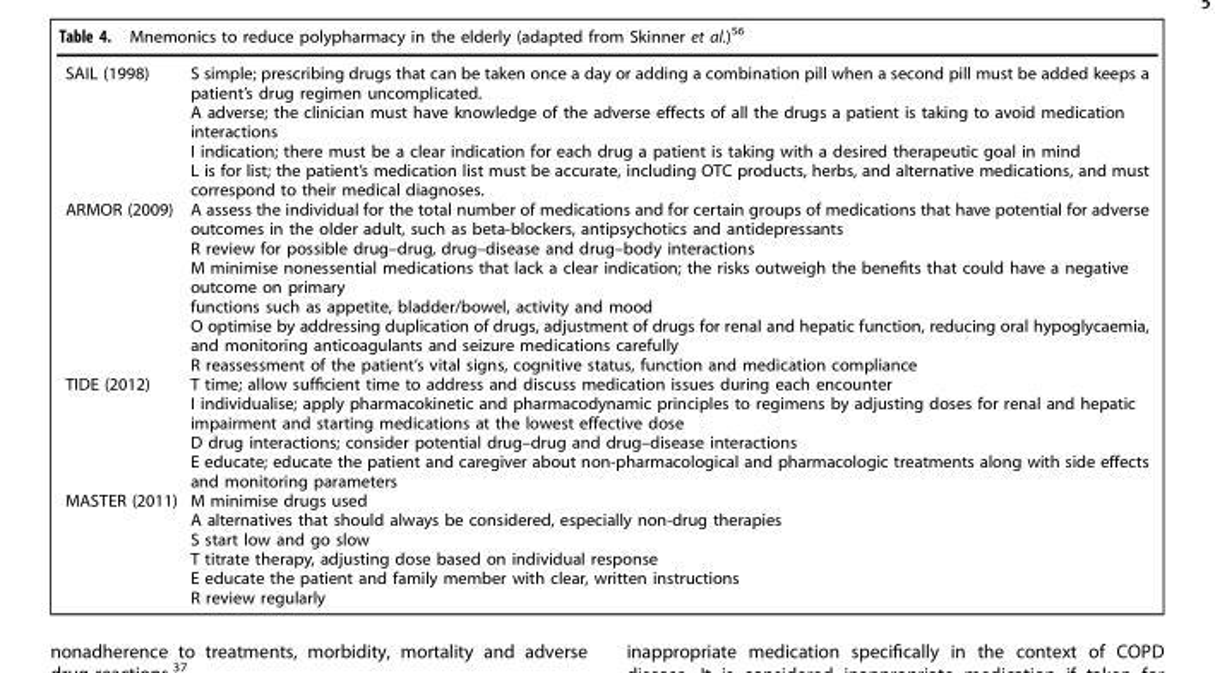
<table><tbody><tr><td>SAIL (1998)</td><td>S simple; prescribing drugs that can be taken once a day or adding a combination pill when a second pill must be added keeps a patient’s drug regimen uncomplicated. A adverse; the clinician must have knowledge of the adverse effects of all the drugs a patient is taking to avoid medication interactions I indication; there must be a clear indication for each drug a patient is taking with a desired therapeutic goal in mind L is for list; the patient’s medication list must be accurate, including OTC products, herbs, and alternative medications, and must correspond to their medical diagnoses.</td></tr><tr><td>ARMOR (2009)</td><td>A assess the individual for the total number of medications and for certain groups of medications that have potential for adverse outcomes in the older adult, such as beta-blockers, antipsychotics and antidepressants R review for possible drug–drug, drug–disease and drug–body interactions M minimise nonessential medications that lack a clear indication; the risks outweigh the benefits that could have a negative outcome on primary functions such as appetite, bladder/bowel, activity and mood O optimise by addressing duplication of drugs, adjustment of drugs for renal and hepatic function, reducing oral hypoglycaemia, and monitoring anticoagulants and seizure medications carefully R reassessment of the patient’s vital signs, cognitive status, function and medication compliance</td></tr><tr><td>TIDE (2012)</td><td>T time; allow sufficient time to address and discuss medication issues during each encounter I individualise; apply pharmacokinetic and pharmacodynamic principles to regimens by adjusting doses for renal and hepatic impairment and starting medications at the lowest effective dose D drug interactions; consider potential drug–drug and drug–disease interactions E educate; educate the patient and caregiver about non-pharmacological and pharmacologic treatments along with side effects and monitoring parameters</td></tr><tr><td>MASTER (2011)</td><td>M minimise drugs used A alternatives that should always be considered, especially non-drug therapies S start low and go slow T titrate therapy, adjusting dose based on individual response E educate the patient and family member with clear, written instructions R review regularly</td></tr></tbody></table>